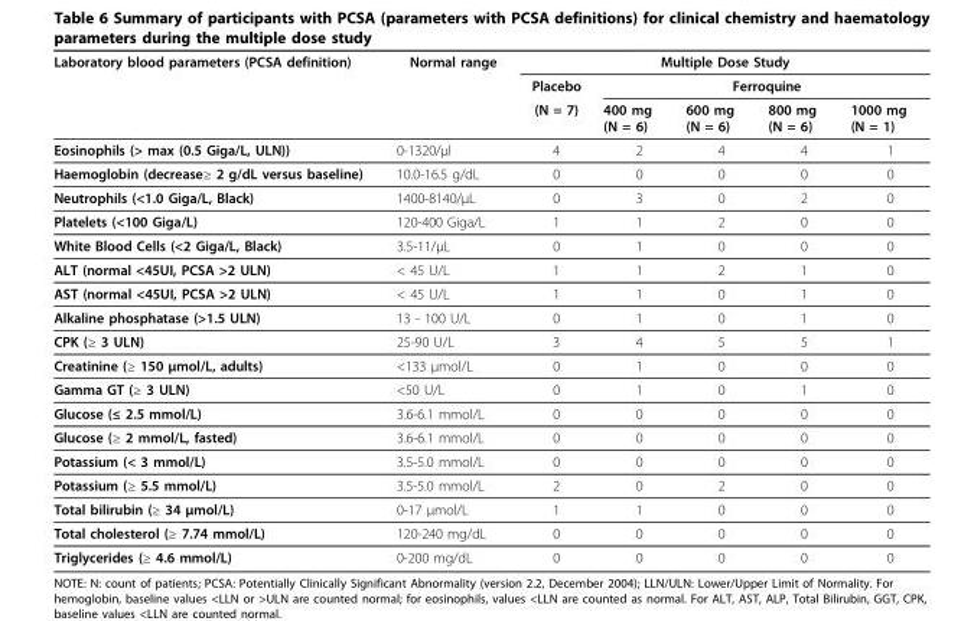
<table><thead><tr><td rowspan="3">Laboratory blood parameters (PCSA definition)</td><td rowspan="3">Normal range</td><td colspan="5">Multiple Dose Study</td></tr><tr><td rowspan="2">Placebo (N = 7)</td><td colspan="4">Ferroquine</td></tr><tr><td>400 mg (N = 6)</td><td>600 mg (N = 6)</td><td>800 mg (N = 6)</td><td>1000 mg (N = 1)</td></tr></thead><tbody><tr><td>Eosinophils (&gt; max (0.5 Giga/L, ULN))</td><td>0-1320/μl</td><td>4</td><td>2</td><td>4</td><td>4</td><td>1</td></tr><tr><td>Haemoglobin (decrease≥ 2 g/dL versus baseline)</td><td>10.0-16.5 g/dL</td><td>0</td><td>0</td><td>0</td><td>0</td><td>0</td></tr><tr><td>Neutrophils (&lt;1.0 Giga/L, Black)</td><td>1400-8140/μL</td><td>0</td><td>3</td><td>0</td><td>2</td><td>0</td></tr><tr><td>Platelets (&lt;100 Giga/L)</td><td>120-400 Giga/L</td><td>1</td><td>1</td><td>2</td><td>0</td><td>0</td></tr><tr><td>White Blood Cells (&lt;2 Giga/L, Black)</td><td>3.5-11/μL</td><td>0</td><td>1</td><td>0</td><td>0</td><td>0</td></tr><tr><td>ALT (normal &lt;45UI, PCSA &gt;2 ULN)</td><td>&lt; 45 U/L</td><td>1</td><td>1</td><td>2</td><td>1</td><td>0</td></tr><tr><td>AST (normal &lt;45UI, PCSA &gt;2 ULN)</td><td>&lt; 45 U/L</td><td>1</td><td>1</td><td>0</td><td>1</td><td>0</td></tr><tr><td>Alkaline phosphatase (&gt;1.5 ULN)</td><td>13 - 100 U/L</td><td>0</td><td>1</td><td>0</td><td>1</td><td>0</td></tr><tr><td>CPK (≥ 3 ULN)</td><td>25-90 U/L</td><td>3</td><td>4</td><td>5</td><td>5</td><td>1</td></tr><tr><td>Creatinine (≥ 150 μmol/L, adults)</td><td>&lt;133 μmol/L</td><td>0</td><td>1</td><td>0</td><td>0</td><td>0</td></tr><tr><td>Gamma GT (≥ 3 ULN)</td><td>&lt;50 U/L</td><td>0</td><td>1</td><td>0</td><td>1</td><td>0</td></tr><tr><td>Glucose (≤ 2.5 mmol/L)</td><td>3.6-6.1 mmol/L</td><td>0</td><td>0</td><td>0</td><td>0</td><td>0</td></tr><tr><td>Glucose (≥ 2 mmol/L, fasted)</td><td>3.6-6.1 mmol/L</td><td>0</td><td>0</td><td>0</td><td>0</td><td>0</td></tr><tr><td>Potassium (&lt; 3 mmol/L)</td><td>3.5-5.0 mmol/L</td><td>0</td><td>0</td><td>0</td><td>0</td><td>0</td></tr><tr><td>Potassium (≥ 5.5 mmol/L)</td><td>3.5-5.0 mmol/L</td><td>2</td><td>0</td><td>2</td><td>0</td><td>0</td></tr><tr><td>Total bilirubin (≥ 34 μmol/L)</td><td>0-17 μmol/L</td><td>1</td><td>1</td><td>0</td><td>0</td><td>0</td></tr><tr><td>Total cholesterol (≥ 7.74 mmol/L)</td><td>120-240 mg/dL</td><td>0</td><td>0</td><td>0</td><td>0</td><td>0</td></tr><tr><td>Triglycerides (≥ 4.6 mmol/L)</td><td>0-200 mg/dL</td><td>0</td><td>0</td><td>0</td><td>0</td><td>0</td></tr></tbody></table>